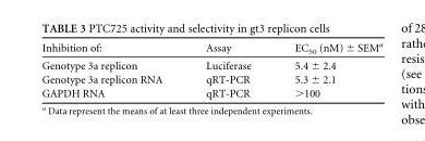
<table><thead><tr><td>Inhibition of:</td><td>Assay</td><td>EC<sub>50</sub> (nM) ± SEM<sup>a</sup></td></tr></thead><tbody><tr><td>Genotype 3a replicon</td><td>Luciferase</td><td>5.4 ± 2.4</td></tr><tr><td>Genotype 3a replicon RNA</td><td>qRT-PCR</td><td>5.3 ± 2.1</td></tr><tr><td>GAPDH RNA</td><td>qRT-PCR</td><td>&gt;100</td></tr></tbody></table>